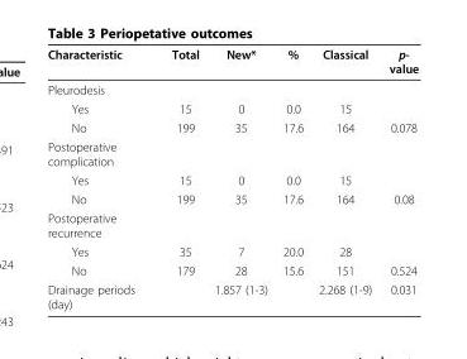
<table><thead><tr><td>Characteristic</td><td>Total</td><td>New*</td><td>%</td><td>Classical</td><td>p- value</td></tr></thead><tbody><tr><td colspan="6">Pleurodesis</td></tr><tr><td>Yes</td><td>15</td><td>0</td><td>0.0</td><td>15</td><td></td></tr><tr><td>No</td><td>199</td><td>35</td><td>17.6</td><td>164</td><td>0.078</td></tr><tr><td colspan="6">Postoperative complication</td></tr><tr><td>Yes</td><td>15</td><td>0</td><td>0.0</td><td>15</td><td></td></tr><tr><td>No</td><td>199</td><td>35</td><td>17.6</td><td>164</td><td>0.08</td></tr><tr><td colspan="6">Postoperative recurrence</td></tr><tr><td>Yes</td><td>35</td><td>7</td><td>20.0</td><td>28</td><td></td></tr><tr><td>No</td><td>179</td><td>28</td><td>15.6</td><td>151</td><td>0.524</td></tr><tr><td>Drainage periods (day)</td><td></td><td>1.857 (1-3)</td><td></td><td>2.268 (1-9)</td><td>0.031</td></tr></tbody></table>